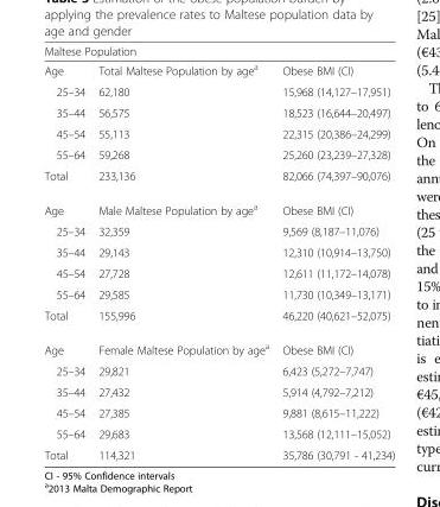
<table><thead><tr><td colspan="3">Maltese Population</td></tr><tr><td>Age</td><td>Total Maltese Population by age<sup>a</sup></td><td>Obese BMI (CI)</td></tr></thead><tbody><tr><td>25–34</td><td>62,180</td><td>15,968 (14,127–17,951)</td></tr><tr><td>35–44</td><td>56,575</td><td>18,523 (16,644–20,497)</td></tr><tr><td>45–54</td><td>55,113</td><td>22,315 (20,386–24,299)</td></tr><tr><td>55–64</td><td>59,268</td><td>25,260 (23,239–27,328)</td></tr><tr><td>Total</td><td>233,136</td><td>82,066 (74,397–90,076)</td></tr><tr><td>Age</td><td>Male Maltese Population by age<sup>a</sup></td><td>Obese BMI (CI)</td></tr><tr><td>25–34</td><td>32,359</td><td>9,569 (8,187–11,076)</td></tr><tr><td>35–44</td><td>29,143</td><td>12,310 (10,914–13,750)</td></tr><tr><td>45–54</td><td>27,728</td><td>12,611 (11,172–14,078)</td></tr><tr><td>55–64</td><td>29,585</td><td>11,730 (10,349–13,171)</td></tr><tr><td>Total</td><td>155,996</td><td>46,220 (40,621–52,075)</td></tr><tr><td>Age</td><td>Female Maltese Population by age<sup>a</sup></td><td>Obese BMI (CI)</td></tr><tr><td>25–34</td><td>29,821</td><td>6,423 (5,272–7,747)</td></tr><tr><td>35–44</td><td>27,432</td><td>5,914 (4,792–7,212)</td></tr><tr><td>45–54</td><td>27,385</td><td>9,881 (8,615–11,222)</td></tr><tr><td>55–64</td><td>29,683</td><td>13,568 (12,111–15,052)</td></tr><tr><td>Total</td><td>114,321</td><td>35,786 (30,791 - 41,234)</td></tr></tbody></table>